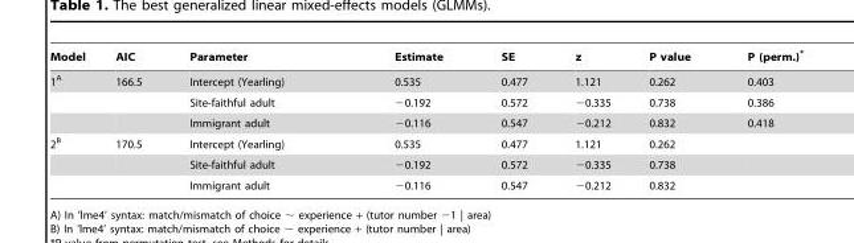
<table><thead><tr><td>Model</td><td>AIC</td><td>Parameter</td><td>Estimate</td><td>SE</td><td>z</td><td>P value</td><td>P (perm.)*</td></tr></thead><tbody><tr><td rowspan="3">1<sup>A</sup></td><td>166.5</td><td>Intercept (Yearling)</td><td>0.535</td><td>0.477</td><td>1.121</td><td>0.262</td><td>0.403</td></tr><tr><td></td><td>Site-faithful adult</td><td>−0.192</td><td>0.572</td><td>−0.335</td><td>0.738</td><td>0.386</td></tr><tr><td></td><td>Immigrant adult</td><td>−0.116</td><td>0.547</td><td>−0.212</td><td>0.832</td><td>0.418</td></tr><tr><td rowspan="3">2<sup>B</sup></td><td>170.5</td><td>Intercept (Yearling)</td><td>0.535</td><td>0.477</td><td>1.121</td><td>0.262</td><td></td></tr><tr><td></td><td>Site-faithful adult</td><td>−0.192</td><td>0.572</td><td>−0.335</td><td>0.738</td><td></td></tr><tr><td></td><td>Immigrant adult</td><td>−0.116</td><td>0.547</td><td>−0.212</td><td>0.832</td><td></td></tr></tbody></table>